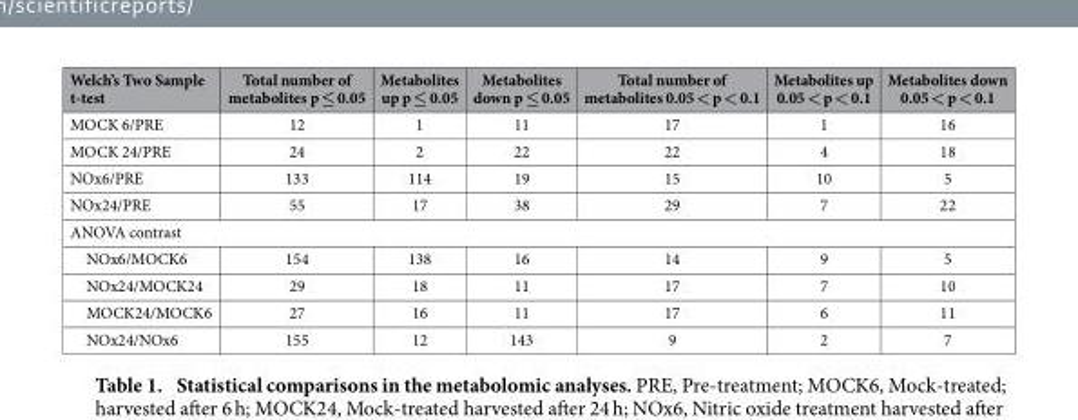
<table><thead><tr><td>Welch’s Two Sample t-test</td><td>Total number of metabolites p ≤ 0.05</td><td>Metabolites up p ≤ 0.05</td><td>Metabolites down p ≤ 0.05</td><td>Total number of metabolites 0.05 &lt; p &lt; 0.1</td><td>Metabolites up 0.05 &lt; p &lt; 0.1</td><td>Metabolites down 0.05 &lt; p &lt; 0.1</td></tr></thead><tbody><tr><td>MOCK 6/PRE</td><td>12</td><td>1</td><td>11</td><td>17</td><td>1</td><td>16</td></tr><tr><td>MOCK 24/PRE</td><td>24</td><td>2</td><td>22</td><td>22</td><td>4</td><td>18</td></tr><tr><td>NOx6/PRE</td><td>133</td><td>114</td><td>19</td><td>15</td><td>10</td><td>5</td></tr><tr><td>NOx24/PRE</td><td>55</td><td>17</td><td>38</td><td>29</td><td>7</td><td>22</td></tr><tr><td colspan="7">ANOVA contrast</td></tr><tr><td>NOx6/MOCK6</td><td>154</td><td>138</td><td>16</td><td>14</td><td>9</td><td>5</td></tr><tr><td>NOx24/MOCK24</td><td>29</td><td>18</td><td>11</td><td>17</td><td>7</td><td>10</td></tr><tr><td>MOCK24/MOCK6</td><td>27</td><td>16</td><td>11</td><td>17</td><td>6</td><td>11</td></tr><tr><td>NOx24/NOx6</td><td>155</td><td>12</td><td>143</td><td>9</td><td>2</td><td>7</td></tr></tbody></table>